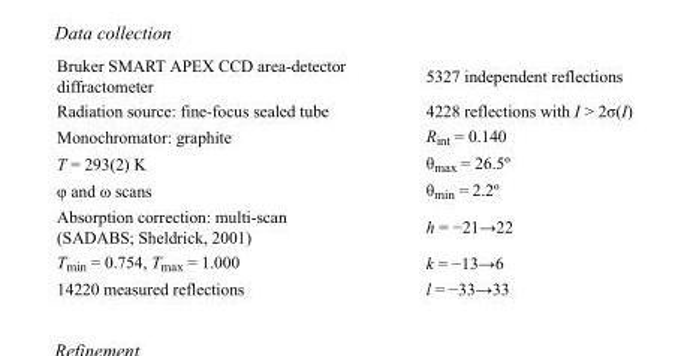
<table><tbody><tr><td>Bruker SMART APEX CCD area-detector diffractometer</td><td>5327 independent reflections</td></tr><tr><td>Radiation source: fine-focus sealed tube</td><td>4228 reflections with I &gt; 2σ(I)</td></tr><tr><td>Monochromator: graphite</td><td>R<sub>int</sub> = 0.140</td></tr><tr><td>T = 293(2) K</td><td>θ<sub>max</sub> = 26.5º</td></tr><tr><td>φ and ω scans</td><td>θ<sub>min</sub> = 2.2º</td></tr><tr><td>Absorption correction: multi-scan (SADABS; Sheldrick, 2001)</td><td>h = −21→22</td></tr><tr><td>T<sub>min</sub> = 0.754, T<sub>max</sub> = 1.000</td><td>k = −13→6</td></tr><tr><td>14220 measured reflections</td><td>l = −33→33</td></tr></tbody></table>